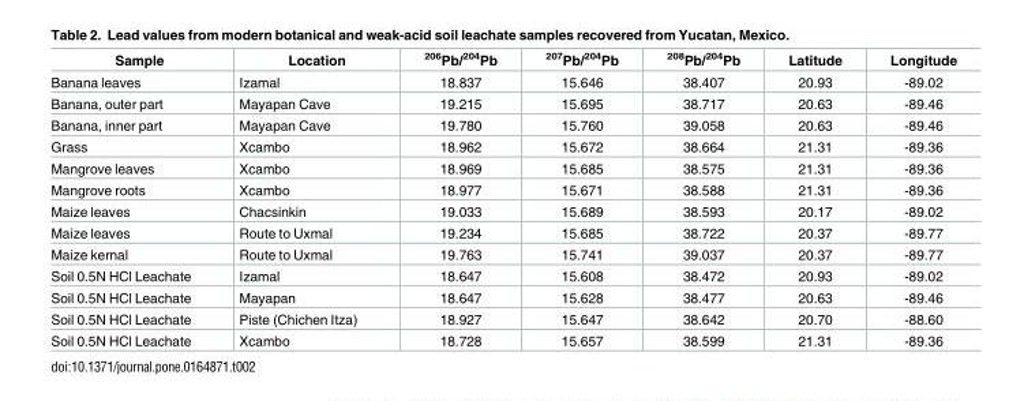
<table><thead><tr><td>Sample</td><td>Location</td><td><sup>206</sup>Pb/<sup>204</sup>Pb</td><td><sup>207</sup>Pb/<sup>204</sup>Pb</td><td><sup>208</sup>Pb/<sup>204</sup>Pb</td><td>Latitude</td><td>Longitude</td></tr></thead><tbody><tr><td>Banana leaves</td><td>Izamal</td><td>18.837</td><td>15.646</td><td>38.407</td><td>20.93</td><td>-89.02</td></tr><tr><td>Banana, outer part</td><td>Mayapan Cave</td><td>19.215</td><td>15.695</td><td>38.717</td><td>20.63</td><td>-89.46</td></tr><tr><td>Banana, inner part</td><td>Mayapan Cave</td><td>19.780</td><td>15.760</td><td>39.058</td><td>20.63</td><td>-89.46</td></tr><tr><td>Grass</td><td>Xcambo</td><td>18.962</td><td>15.672</td><td>38.664</td><td>21.31</td><td>-89.36</td></tr><tr><td>Mangrove leaves</td><td>Xcambo</td><td>18.969</td><td>15.685</td><td>38.575</td><td>21.31</td><td>-89.36</td></tr><tr><td>Mangrove roots</td><td>Xcambo</td><td>18.977</td><td>15.671</td><td>38.588</td><td>21.31</td><td>-89.36</td></tr><tr><td>Maize leaves</td><td>Chacsinkin</td><td>19.033</td><td>15.689</td><td>38.593</td><td>20.17</td><td>-89.02</td></tr><tr><td>Maize leaves</td><td>Route to Uxmal</td><td>19.234</td><td>15.685</td><td>38.722</td><td>20.37</td><td>-89.77</td></tr><tr><td>Maize kernal</td><td>Route to Uxmal</td><td>19.763</td><td>15.741</td><td>39.037</td><td>20.37</td><td>-89.77</td></tr><tr><td>Soil 0.5N HCl Leachate</td><td>Izamal</td><td>18.647</td><td>15.608</td><td>38.472</td><td>20.93</td><td>-89.02</td></tr><tr><td>Soil 0.5N HCl Leachate</td><td>Mayapan</td><td>18.647</td><td>15.628</td><td>38.477</td><td>20.63</td><td>-89.46</td></tr><tr><td>Soil 0.5N HCl Leachate</td><td>Piste (Chichen Itza)</td><td>18.927</td><td>15.647</td><td>38.642</td><td>20.70</td><td>-88.60</td></tr><tr><td>Soil 0.5N HCl Leachate</td><td>Xcambo</td><td>18.728</td><td>15.657</td><td>38.599</td><td>21.31</td><td>-89.36</td></tr></tbody></table>